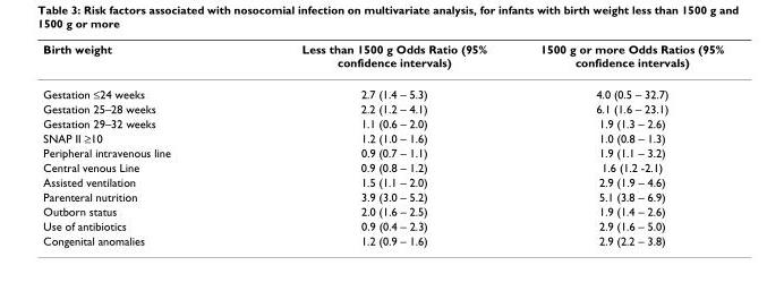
<table><thead><tr><td>Birth weight</td><td>Less than 1500 g Odds Ratio (95% confidence intervals)</td><td>1500 g or more Odds Ratios (95% confidence intervals)</td></tr></thead><tbody><tr><td>Gestation ≤24 weeks</td><td>2.7 (1.4 – 5.3)</td><td>4.0 (0.5 – 32.7)</td></tr><tr><td>Gestation 25–28 weeks</td><td>2.2 (1.2 – 4.1)</td><td>6.1 (1.6 – 23.1)</td></tr><tr><td>Gestation 29–32 weeks</td><td>1.1 (0.6 – 2.0)</td><td>1.9 (1.3 – 2.6)</td></tr><tr><td>SNAP II ≥10</td><td>1.2 (1.0 – 1.6)</td><td>1.0 (0.8 – 1.3)</td></tr><tr><td>Peripheral intravenous line</td><td>0.9 (0.7 – 1.1)</td><td>1.9 (1.1 – 3.2)</td></tr><tr><td>Central venous Line</td><td>0.9 (0.8 – 1.2)</td><td>1.6 (1.2 -2.1)</td></tr><tr><td>Assisted ventilation</td><td>1.5 (1.1 – 2.0)</td><td>2.9 (1.9 – 4.6)</td></tr><tr><td>Parenteral nutrition</td><td>3.9 (3.0 – 5.2)</td><td>5.1 (3.8 – 6.9)</td></tr><tr><td>Outborn status</td><td>2.0 (1.6 – 2.5)</td><td>1.9 (1.4 – 2.6)</td></tr><tr><td>Use of antibiotics</td><td>0.9 (0.4 – 2.3)</td><td>2.9 (1.6 – 5.0)</td></tr><tr><td>Congenital anomalies</td><td>1.2 (0.9 – 1.6)</td><td>2.9 (2.2 – 3.8)</td></tr></tbody></table>